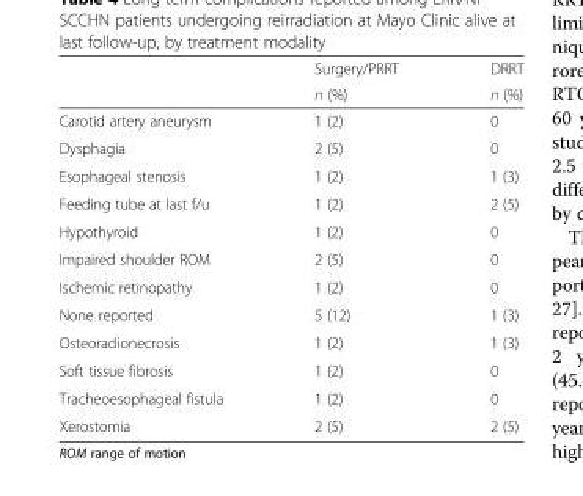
<table><thead><tr><td rowspan="2"></td><td rowspan="2">Surgery/PRRT n (%)</td><td rowspan="2">DRRT n (%)</td></tr><tr></tr></thead><tbody><tr><td>Carotid artery aneurysm</td><td>1 (2)</td><td>0</td></tr><tr><td>Dysphagia</td><td>2 (5)</td><td>0</td></tr><tr><td>Esophageal stenosis</td><td>1 (2)</td><td>1 (3)</td></tr><tr><td>Feeding tube at last f/u</td><td>1 (2)</td><td>2 (5)</td></tr><tr><td>Hypothyroid</td><td>1 (2)</td><td>0</td></tr><tr><td>Impaired shoulder ROM</td><td>2 (5)</td><td>0</td></tr><tr><td>Ischemic retinopathy</td><td>1 (2)</td><td>0</td></tr><tr><td>None reported</td><td>5 (12)</td><td>1 (3)</td></tr><tr><td>Osteoradionecrosis</td><td>1 (2)</td><td>1 (3)</td></tr><tr><td>Soft tissue fibrosis</td><td>1 (2)</td><td>0</td></tr><tr><td>Tracheoesophageal fistula</td><td>1 (2)</td><td>0</td></tr><tr><td>Xerostomia</td><td>2 (5)</td><td>2 (5)</td></tr></tbody></table>